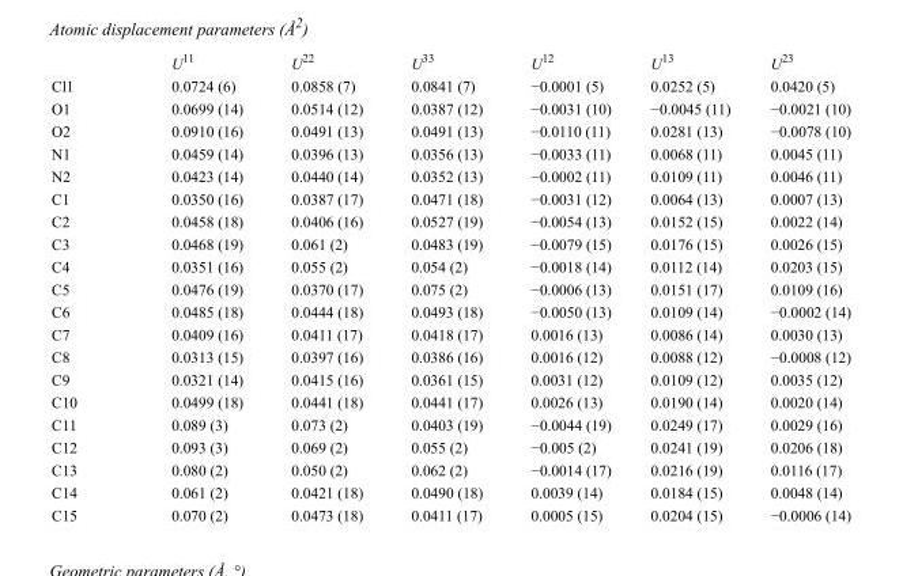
<table><thead><tr><td></td><td>U<sup>11</sup></td><td>U<sup>22</sup></td><td>U<sup>33</sup></td><td>U<sup>12</sup></td><td>U<sup>13</sup></td><td>U<sup>23</sup></td></tr></thead><tbody><tr><td>Cl1</td><td>0.0724 (6)</td><td>0.0858 (7)</td><td>0.0841 (7)</td><td>−0.0001 (5)</td><td>0.0252 (5)</td><td>0.0420 (5)</td></tr><tr><td>O1</td><td>0.0699 (14)</td><td>0.0514 (12)</td><td>0.0387 (12)</td><td>−0.0031 (10)</td><td>−0.0045 (11)</td><td>−0.0021 (10)</td></tr><tr><td>O2</td><td>0.0910 (16)</td><td>0.0491 (13)</td><td>0.0491 (13)</td><td>−0.0110 (11)</td><td>0.0281 (13)</td><td>−0.0078 (10)</td></tr><tr><td>N1</td><td>0.0459 (14)</td><td>0.0396 (13)</td><td>0.0356 (13)</td><td>−0.0033 (11)</td><td>0.0068 (11)</td><td>0.0045 (11)</td></tr><tr><td>N2</td><td>0.0423 (14)</td><td>0.0440 (14)</td><td>0.0352 (13)</td><td>−0.0002 (11)</td><td>0.0109 (11)</td><td>0.0046 (11)</td></tr><tr><td>C1</td><td>0.0350 (16)</td><td>0.0387 (17)</td><td>0.0471 (18)</td><td>−0.0031 (12)</td><td>0.0064 (13)</td><td>0.0007 (13)</td></tr><tr><td>C2</td><td>0.0458 (18)</td><td>0.0406 (16)</td><td>0.0527 (19)</td><td>−0.0054 (13)</td><td>0.0152 (15)</td><td>0.0022 (14)</td></tr><tr><td>C3</td><td>0.0468 (19)</td><td>0.061 (2)</td><td>0.0483 (19)</td><td>−0.0079 (15)</td><td>0.0176 (15)</td><td>0.0026 (15)</td></tr><tr><td>C4</td><td>0.0351 (16)</td><td>0.055 (2)</td><td>0.054 (2)</td><td>−0.0018 (14)</td><td>0.0112 (14)</td><td>0.0203 (15)</td></tr><tr><td>C5</td><td>0.0476 (19)</td><td>0.0370 (17)</td><td>0.075 (2)</td><td>−0.0006 (13)</td><td>0.0151 (17)</td><td>0.0109 (16)</td></tr><tr><td>C6</td><td>0.0485 (18)</td><td>0.0444 (18)</td><td>0.0493 (18)</td><td>−0.0050 (13)</td><td>0.0109 (14)</td><td>−0.0002 (14)</td></tr><tr><td>C7</td><td>0.0409 (16)</td><td>0.0411 (17)</td><td>0.0418 (17)</td><td>0.0016 (13)</td><td>0.0086 (14)</td><td>0.0030 (13)</td></tr><tr><td>C8</td><td>0.0313 (15)</td><td>0.0397 (16)</td><td>0.0386 (16)</td><td>0.0016 (12)</td><td>0.0088 (12)</td><td>−0.0008 (12)</td></tr><tr><td>C9</td><td>0.0321 (14)</td><td>0.0415 (16)</td><td>0.0361 (15)</td><td>0.0031 (12)</td><td>0.0109 (12)</td><td>0.0035 (12)</td></tr><tr><td>C10</td><td>0.0499 (18)</td><td>0.0441 (18)</td><td>0.0441 (17)</td><td>0.0026 (13)</td><td>0.0190 (14)</td><td>0.0020 (14)</td></tr><tr><td>C11</td><td>0.089 (3)</td><td>0.073 (2)</td><td>0.0403 (19)</td><td>−0.0044 (19)</td><td>0.0249 (17)</td><td>0.0029 (16)</td></tr><tr><td>C12</td><td>0.093 (3)</td><td>0.069 (2)</td><td>0.055 (2)</td><td>−0.005 (2)</td><td>0.0241 (19)</td><td>0.0206 (18)</td></tr><tr><td>C13</td><td>0.080 (2)</td><td>0.050 (2)</td><td>0.062 (2)</td><td>−0.0014 (17)</td><td>0.0216 (19)</td><td>0.0116 (17)</td></tr><tr><td>C14</td><td>0.061 (2)</td><td>0.0421 (18)</td><td>0.0490 (18)</td><td>0.0039 (14)</td><td>0.0184 (15)</td><td>0.0048 (14)</td></tr><tr><td>C15</td><td>0.070 (2)</td><td>0.0473 (18)</td><td>0.0411 (17)</td><td>0.0005 (15)</td><td>0.0204 (15)</td><td>−0.0006 (14)</td></tr></tbody></table>